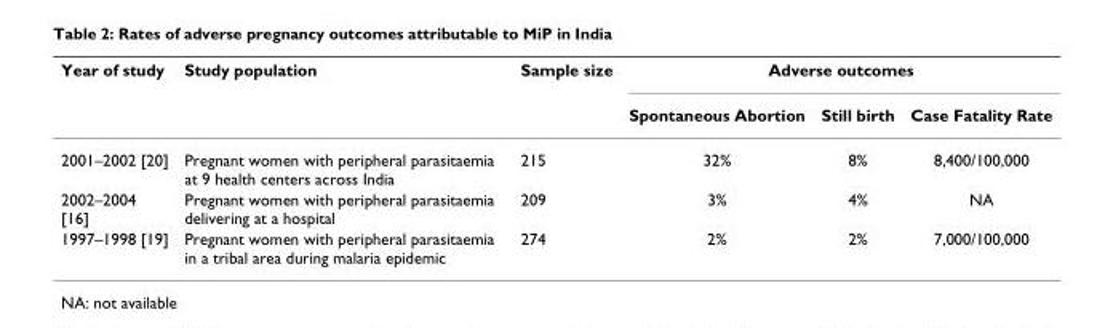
<table><thead><tr><td rowspan="2">Year of study</td><td rowspan="2">Study population</td><td rowspan="2">Sample size</td><td colspan="3">Adverse outcomes</td></tr><tr><td>Spontaneous Abortion</td><td>Still birth</td><td>Case Fatality Rate</td></tr></thead><tbody><tr><td>2001–2002 [20]</td><td>Pregnant women with peripheral parasitaemia at 9 health centers across India</td><td>215</td><td>32%</td><td>8%</td><td>8,400/100,000</td></tr><tr><td>2002–2004 [16]</td><td>Pregnant women with peripheral parasitaemia delivering at a hospital</td><td>209</td><td>3%</td><td>4%</td><td>NA</td></tr><tr><td>1997–1998 [19]</td><td>Pregnant women with peripheral parasitaemia in a tribal area during malaria epidemic</td><td>274</td><td>2%</td><td>2%</td><td>7,000/100,000</td></tr></tbody></table>